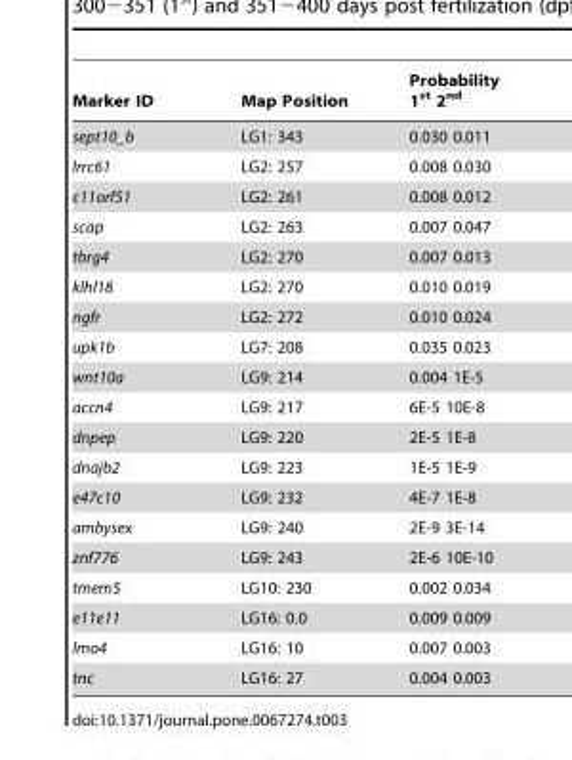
<table><thead><tr><td>Marker ID</td><td>Map Position</td><td>Probability 1<sup>st</sup> 2<sup>nd</sup></td></tr></thead><tbody><tr><td>sept10_b</td><td>LG1: 343</td><td>0.030 0.011</td></tr><tr><td>lrrc61</td><td>LG2: 257</td><td>0.008 0.030</td></tr><tr><td>c11orf51</td><td>LG2: 261</td><td>0.008 0.012</td></tr><tr><td>scap</td><td>LG2: 263</td><td>0.007 0.047</td></tr><tr><td>tbrg4</td><td>LG2: 270</td><td>0.007 0.013</td></tr><tr><td>klhl18</td><td>LG2: 270</td><td>0.010 0.019</td></tr><tr><td>ngfr</td><td>LG2: 272</td><td>0.010 0.024</td></tr><tr><td>upk1b</td><td>LG7: 208</td><td>0.035 0.023</td></tr><tr><td>wnt10a</td><td>LG9: 214</td><td>0.004 1E-5</td></tr><tr><td>accn4</td><td>LG9: 217</td><td>6E-5 10E-8</td></tr><tr><td>dnpep</td><td>LG9: 220</td><td>2E-5 1E-8</td></tr><tr><td>dnajb2</td><td>LG9: 223</td><td>1E-5 1E-9</td></tr><tr><td>e47c10</td><td>LG9: 232</td><td>4E-7 1E-8</td></tr><tr><td>ambysex</td><td>LG9: 240</td><td>2E-9 3E-14</td></tr><tr><td>znf776</td><td>LG9: 243</td><td>2E-6 10E-10</td></tr><tr><td>tmem5</td><td>LG10: 230</td><td>0.002 0.034</td></tr><tr><td>e11e11</td><td>LG16: 0.0</td><td>0.009 0.009</td></tr><tr><td>lmo4</td><td>LG16: 10</td><td>0.007 0.003</td></tr><tr><td>tnc</td><td>LG16: 27</td><td>0.004 0.003</td></tr></tbody></table>